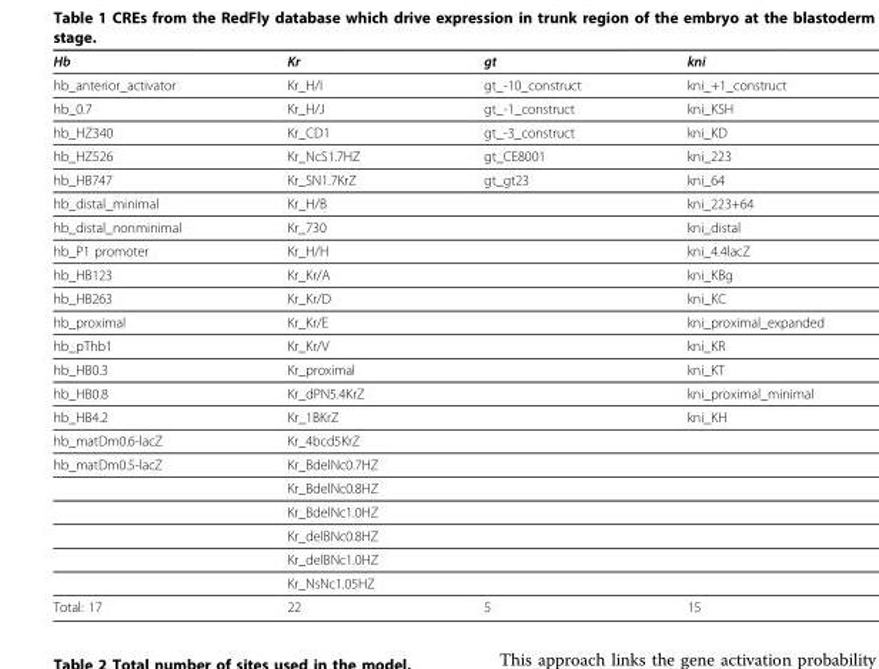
<table><thead><tr><td>Hb</td><td>Kr</td><td>gt</td><td>kni</td></tr></thead><tbody><tr><td>hb_anterior_activator</td><td>Kr_H/I</td><td>gt_-10_construct</td><td>kni_+1_construct</td></tr><tr><td>hb_0.7</td><td>Kr_H/J</td><td>gt_-1_construct</td><td>kni_KSH</td></tr><tr><td>hb_HZ340</td><td>Kr_CD1</td><td>gt_-3_construct</td><td>kni_KD</td></tr><tr><td>hb_HZ526</td><td>Kr_NcS1.7HZ</td><td>gt_CE8001</td><td>kni_223</td></tr><tr><td>hb_HB747</td><td>Kr_SN1.7KrZ</td><td>gt_gt23</td><td>kni_64</td></tr><tr><td>hb_distal_minimal</td><td>Kr_H/B</td><td></td><td>kni_223+64</td></tr><tr><td>hb_distal_nonminimal</td><td>Kr_730</td><td></td><td>kni_distal</td></tr><tr><td>hb_P1 promoter</td><td>Kr_H/H</td><td></td><td>kni_4.4lacZ</td></tr><tr><td>hb_HB123</td><td>Kr_Kr/A</td><td></td><td>kni_KBg</td></tr><tr><td>hb_HB263</td><td>Kr_Kr/D</td><td></td><td>kni_KC</td></tr><tr><td>hb_proximal</td><td>Kr_Kr/E</td><td></td><td>kni_proximal_expanded</td></tr><tr><td>hb_pThb1</td><td>Kr_Kr/V</td><td></td><td>kni_KR</td></tr><tr><td>hb_HB0.3</td><td>Kr_proximal</td><td></td><td>kni_KT</td></tr><tr><td>hb_HB0.8</td><td>Kr_dPN5.4KrZ</td><td></td><td>kni_proximal_minimal</td></tr><tr><td>hb_HB4.2</td><td>Kr_1BKrZ</td><td></td><td>kni_KH</td></tr><tr><td>hb_matDm0.6-lacZ</td><td>Kr_4bcd5KrZ</td><td></td><td></td></tr><tr><td rowspan="6">hb_matDm0.5-lacZ</td><td>Kr_BdelNc0.7HZ</td><td></td><td></td></tr><tr><td>Kr_BdelNc0.8HZ</td><td></td><td></td></tr><tr><td>Kr_BdelNc1.0HZ</td><td></td><td></td></tr><tr><td>Kr_delBNc0.8HZ</td><td></td><td></td></tr><tr><td>Kr_delBNc1.0HZ</td><td></td><td></td></tr><tr><td>Kr_NsNc1.05HZ</td><td></td><td></td></tr><tr><td>Total: 17</td><td>22</td><td>5</td><td>15</td></tr></tbody></table>